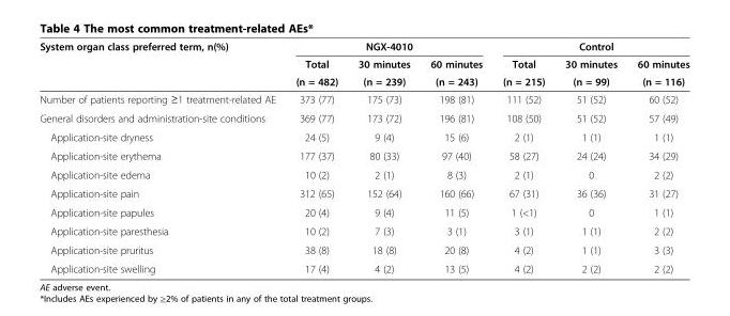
<table><thead><tr><td rowspan="3">System organ class preferred term, n(%)</td><td colspan="3">NGX-4010</td><td colspan="3">Control</td></tr><tr><td rowspan="2">Total (n = 482)</td><td rowspan="2">30 minutes (n = 239)</td><td rowspan="2">60 minutes (n = 243)</td><td rowspan="2">Total (n = 215)</td><td rowspan="2">30 minutes (n = 99)</td><td rowspan="2">60 minutes (n = 116)</td></tr><tr></tr></thead><tbody><tr><td>Number of patients reporting ≥1 treatment-related AE</td><td>373 (77)</td><td>175 (73)</td><td>198 (81)</td><td>111 (52)</td><td>51 (52)</td><td>60 (52)</td></tr><tr><td>General disorders and administration-site conditions</td><td>369 (77)</td><td>173 (72)</td><td>196 (81)</td><td>108 (50)</td><td>51 (52)</td><td>57 (49)</td></tr><tr><td>Application-site dryness</td><td>24 (5)</td><td>9 (4)</td><td>15 (6)</td><td>2 (1)</td><td>1 (1)</td><td>1 (1)</td></tr><tr><td>Application-site erythema</td><td>177 (37)</td><td>80 (33)</td><td>97 (40)</td><td>58 (27)</td><td>24 (24)</td><td>34 (29)</td></tr><tr><td>Application-site edema</td><td>10 (2)</td><td>2 (1)</td><td>8 (3)</td><td>2 (1)</td><td>0</td><td>2 (2)</td></tr><tr><td>Application-site pain</td><td>312 (65)</td><td>152 (64)</td><td>160 (66)</td><td>67 (31)</td><td>36 (36)</td><td>31 (27)</td></tr><tr><td>Application-site papules</td><td>20 (4)</td><td>9 (4)</td><td>11 (5)</td><td>1 (&lt;1)</td><td>0</td><td>1 (1)</td></tr><tr><td>Application-site paresthesia</td><td>10 (2)</td><td>7 (3)</td><td>3 (1)</td><td>3 (1)</td><td>1 (1)</td><td>2 (2)</td></tr><tr><td>Application-site pruritus</td><td>38 (8)</td><td>18 (8)</td><td>20 (8)</td><td>4 (2)</td><td>1 (1)</td><td>3 (3)</td></tr><tr><td>Application-site swelling</td><td>17 (4)</td><td>4 (2)</td><td>13 (5)</td><td>4 (2)</td><td>2 (2)</td><td>2 (2)</td></tr></tbody></table>